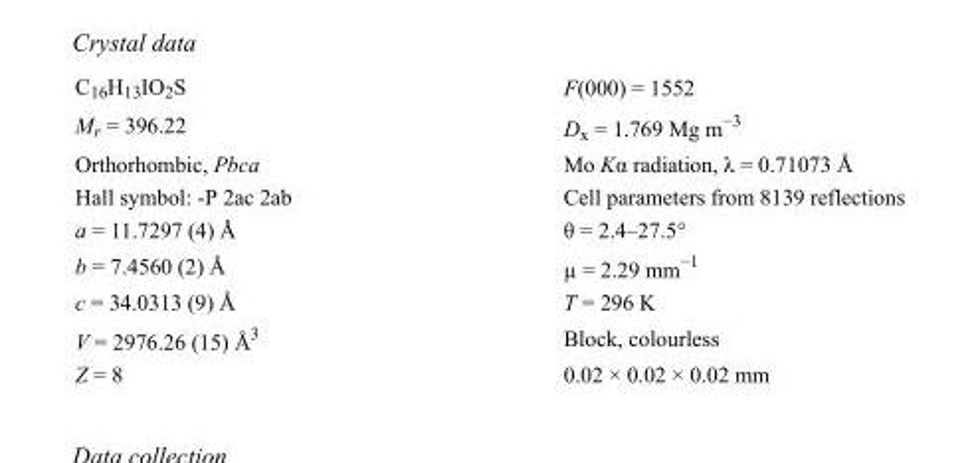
<table><tbody><tr><td>C<sub>16</sub>H<sub>13</sub>IO<sub>2</sub>S</td><td>F(000) = 1552</td></tr><tr><td>M<sub>r</sub> = 396.22</td><td>D<sub>x</sub> = 1.769 Mg m<sup>−3</sup></td></tr><tr><td>Orthorhombic, Pbca</td><td>Mo Kα radiation, λ = 0.71073 Å</td></tr><tr><td>Hall symbol: -P 2ac 2ab</td><td>Cell parameters from 8139 reflections</td></tr><tr><td>a = 11.7297 (4) Å</td><td>θ = 2.4–27.5°</td></tr><tr><td>b = 7.4560 (2) Å</td><td>µ = 2.29 mm<sup>−1</sup></td></tr><tr><td>c = 34.0313 (9) Å</td><td>T = 296 K</td></tr><tr><td>V = 2976.26 (15) Å<sup>3</sup></td><td>Block, colourless</td></tr><tr><td>Z = 8</td><td>0.02 × 0.02 × 0.02 mm</td></tr></tbody></table>